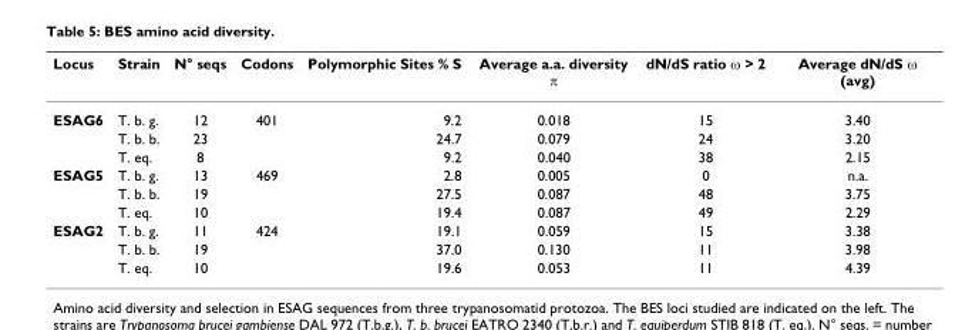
<table><thead><tr><td>Locus</td><td>Strain</td><td>N° seqs</td><td>Codons</td><td>Polymorphic Sites % S</td><td>Average a.a. diversity π</td><td>dN/dS ratio ω &gt; 2</td><td>Average dN/dS ω (avg)</td></tr></thead><tbody><tr><td rowspan="3">ESAG6</td><td>T. b. g.</td><td>12</td><td>401</td><td>9.2</td><td>0.018</td><td>15</td><td>3.40</td></tr><tr><td>T. b. b.</td><td>23</td><td></td><td>24.7</td><td>0.079</td><td>24</td><td>3.20</td></tr><tr><td>T. eq.</td><td>8</td><td></td><td>9.2</td><td>0.040</td><td>38</td><td>2.15</td></tr><tr><td rowspan="3">ESAG5</td><td>T. b. g.</td><td>13</td><td>469</td><td>2.8</td><td>0.005</td><td>0</td><td>n.a.</td></tr><tr><td>T. b. b.</td><td>19</td><td></td><td>27.5</td><td>0.087</td><td>48</td><td>3.75</td></tr><tr><td>T. eq.</td><td>10</td><td></td><td>19.4</td><td>0.087</td><td>49</td><td>2.29</td></tr><tr><td rowspan="3">ESAG2</td><td>T. b. g.</td><td>11</td><td>424</td><td>19.1</td><td>0.059</td><td>15</td><td>3.38</td></tr><tr><td>T. b. b.</td><td>19</td><td></td><td>37.0</td><td>0.130</td><td>11</td><td>3.98</td></tr><tr><td>T. eq.</td><td>10</td><td></td><td>19.6</td><td>0.053</td><td>11</td><td>4.39</td></tr></tbody></table>